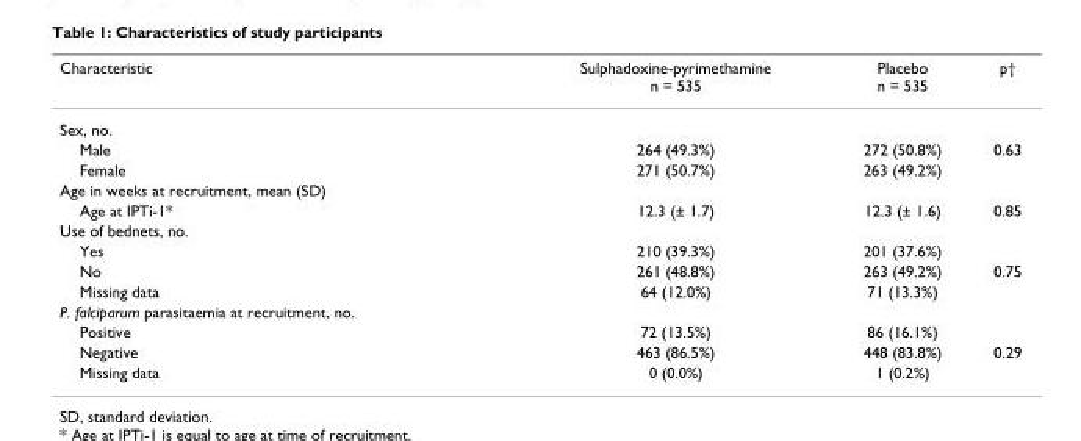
<table><thead><tr><td>Characteristic</td><td>Sulphadoxine-pyrimethamine n = 535</td><td>Placebo n = 535</td><td>p†</td></tr></thead><tbody><tr><td colspan="4">Sex, no.</td></tr><tr><td>Male</td><td>264 (49.3%)</td><td>272 (50.8%)</td><td>0.63</td></tr><tr><td>Female</td><td>271 (50.7%)</td><td>263 (49.2%)</td><td></td></tr><tr><td colspan="4">Age in weeks at recruitment, mean (SD)</td></tr><tr><td>Age at IPTi-1*</td><td>12.3 (± 1.7)</td><td>12.3 (± 1.6)</td><td>0.85</td></tr><tr><td colspan="4">Use of bednets, no.</td></tr><tr><td>Yes</td><td>210 (39.3%)</td><td>201 (37.6%)</td><td></td></tr><tr><td>No</td><td>261 (48.8%)</td><td>263 (49.2%)</td><td>0.75</td></tr><tr><td>Missing data</td><td>64 (12.0%)</td><td>71 (13.3%)</td><td></td></tr><tr><td colspan="4">P. falciparum parasitaemia at recruitment, no.</td></tr><tr><td>Positive</td><td>72 (13.5%)</td><td>86 (16.1%)</td><td></td></tr><tr><td>Negative</td><td>463 (86.5%)</td><td>448 (83.8%)</td><td>0.29</td></tr><tr><td>Missing data</td><td>0 (0.0%)</td><td>1 (0.2%)</td><td></td></tr></tbody></table>